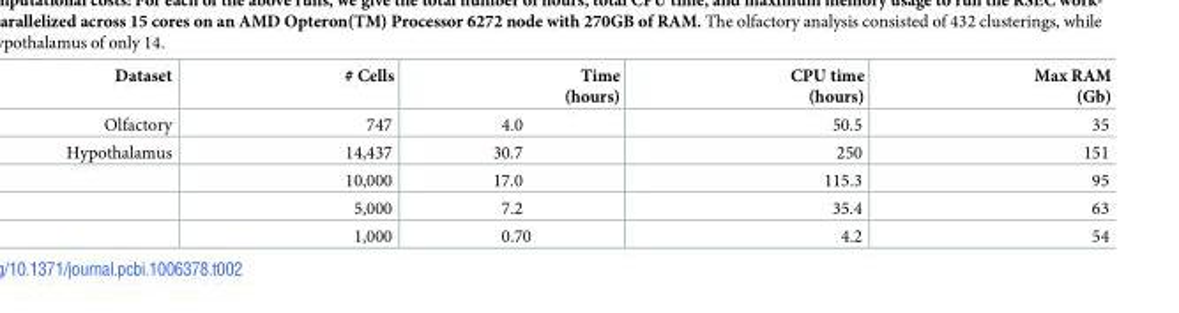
<table><thead><tr><td>Dataset</td><td># Cells</td><td>Time (hours)</td><td>CPU time (hours)</td><td>Max RAM (Gb)</td></tr></thead><tbody><tr><td>Olfactory</td><td>747</td><td>4.0</td><td>50.5</td><td>35</td></tr><tr><td rowspan="4">Hypothalamus</td><td>14,437</td><td>30.7</td><td>250</td><td>151</td></tr><tr><td>10,000</td><td>17.0</td><td>115.3</td><td>95</td></tr><tr><td>5,000</td><td>7.2</td><td>35.4</td><td>63</td></tr><tr><td>1,000</td><td>0.70</td><td>4.2</td><td>54</td></tr></tbody></table>